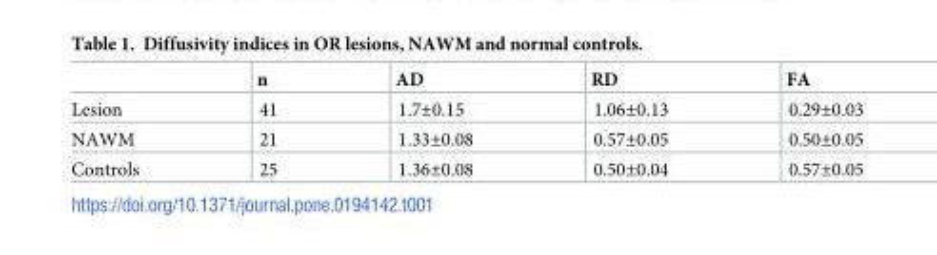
<table><thead><tr><td></td><td>n</td><td>AD</td><td>RD</td><td>FA</td></tr></thead><tbody><tr><td>Lesion</td><td>41</td><td>1.7±0.15</td><td>1.06±0.13</td><td>0.29±0.03</td></tr><tr><td>NAWM</td><td>21</td><td>1.33±0.08</td><td>0.57±0.05</td><td>0.50±0.05</td></tr><tr><td>Controls</td><td>25</td><td>1.36±0.08</td><td>0.50±0.04</td><td>0.57±0.05</td></tr></tbody></table>